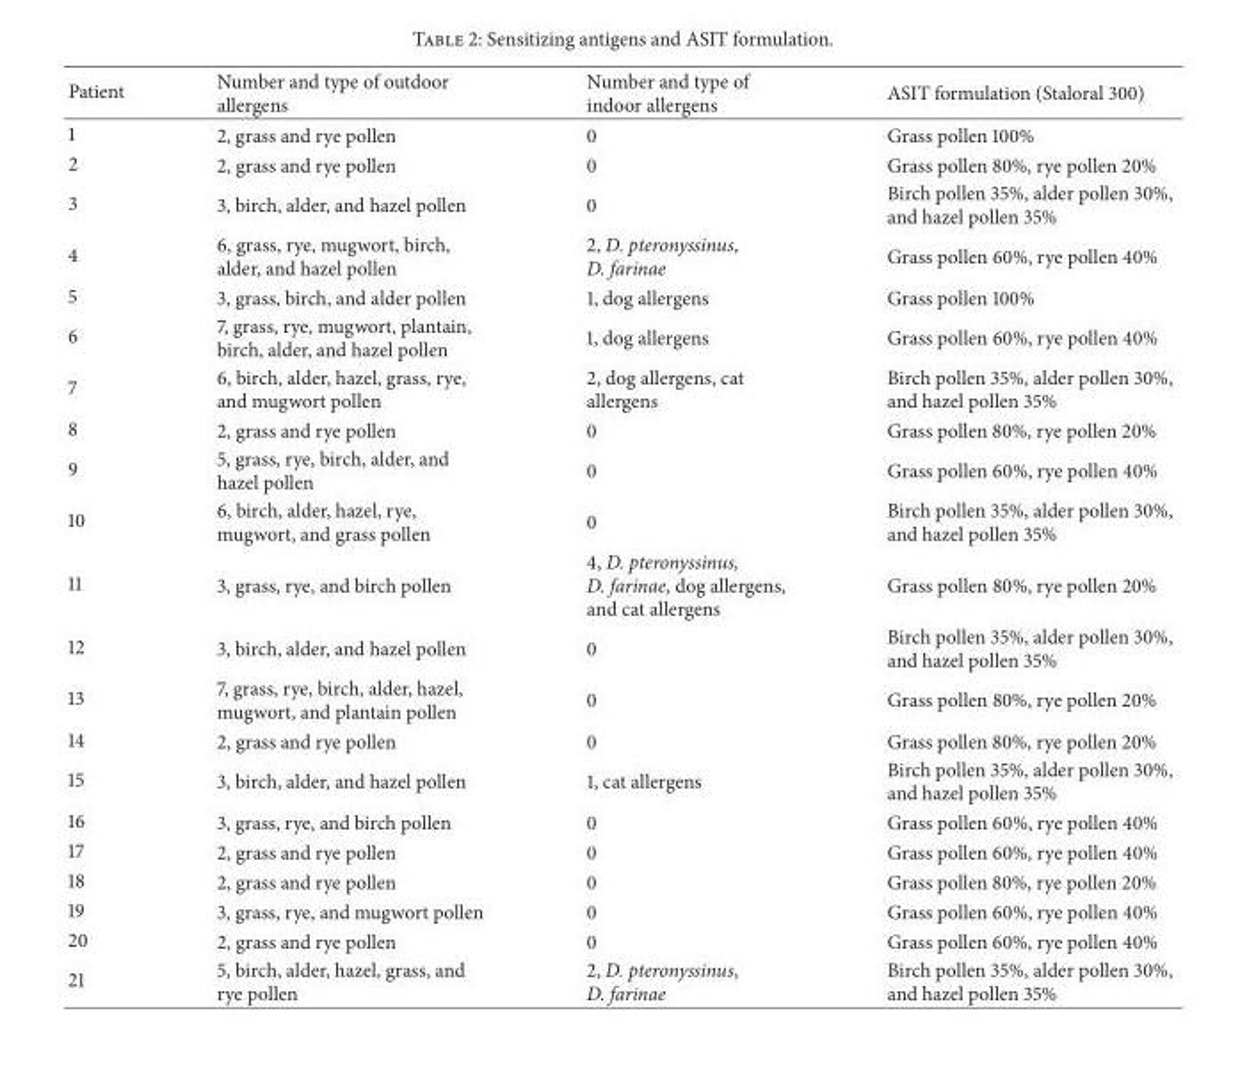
<table><thead><tr><td>Patient</td><td>Number and type of outdoor allergens</td><td>Number and type of indoor allergens</td><td>ASIT formulation (Staloral 300)</td></tr></thead><tbody><tr><td>1</td><td>2, grass and rye pollen</td><td>0</td><td>Grass pollen 100%</td></tr><tr><td>2</td><td>2, grass and rye pollen</td><td>0</td><td>Grass pollen 80%, rye pollen 20%</td></tr><tr><td>3</td><td>3, birch, alder, and hazel pollen</td><td>0</td><td>Birch pollen 35%, alder pollen 30%, and hazel pollen 35%</td></tr><tr><td>4</td><td>6, grass, rye, mugwort, birch, alder, and hazel pollen</td><td>2, D. pteronyssinus, D. farinae</td><td>Grass pollen 60%, rye pollen 40%</td></tr><tr><td>5</td><td>3, grass, birch, and alder pollen</td><td>1, dog allergens</td><td>Grass pollen 100%</td></tr><tr><td>6</td><td>7, grass, rye, mugwort, plantain, birch, alder, and hazel pollen</td><td>1, dog allergens</td><td>Grass pollen 60%, rye pollen 40%</td></tr><tr><td>7</td><td>6, birch, alder, hazel, grass, rye, and mugwort pollen</td><td>2, dog allergens, cat allergens</td><td>Birch pollen 35%, alder pollen 30%, and hazel pollen 35%</td></tr><tr><td>8</td><td>2, grass and rye pollen</td><td>0</td><td>Grass pollen 80%, rye pollen 20%</td></tr><tr><td>9</td><td>5, grass, rye, birch, alder, and hazel pollen</td><td>0</td><td>Grass pollen 60%, rye pollen 40%</td></tr><tr><td>10</td><td>6, birch, alder, hazel, rye, mugwort, and grass pollen</td><td>0</td><td>Birch pollen 35%, alder pollen 30%, and hazel pollen 35%</td></tr><tr><td>11</td><td>3, grass, rye, and birch pollen</td><td>4, D. pteronyssinus, D. farinae, dog allergens, and cat allergens</td><td>Grass pollen 80%, rye pollen 20%</td></tr><tr><td>12</td><td>3, birch, alder, and hazel pollen</td><td>0</td><td>Birch pollen 35%, alder pollen 30%, and hazel pollen 35%</td></tr><tr><td>13</td><td>7, grass, rye, birch, alder, hazel, mugwort, and plantain pollen</td><td>0</td><td>Grass pollen 80%, rye pollen 20%</td></tr><tr><td>14</td><td>2, grass and rye pollen</td><td>0</td><td>Grass pollen 80%, rye pollen 20%</td></tr><tr><td>15</td><td>3, birch, alder, and hazel pollen</td><td>1, cat allergens</td><td>Birch pollen 35%, alder pollen 30%, and hazel pollen 35%</td></tr><tr><td>16</td><td>3, grass, rye, and birch pollen</td><td>0</td><td>Grass pollen 60%, rye pollen 40%</td></tr><tr><td>17</td><td>2, grass and rye pollen</td><td>0</td><td>Grass pollen 60%, rye pollen 40%</td></tr><tr><td>18</td><td>2, grass and rye pollen</td><td>0</td><td>Grass pollen 80%, rye pollen 20%</td></tr><tr><td>19</td><td>3, grass, rye, and mugwort pollen</td><td>0</td><td>Grass pollen 60%, rye pollen 40%</td></tr><tr><td>20</td><td>2, grass and rye pollen</td><td>0</td><td>Grass pollen 60%, rye pollen 40%</td></tr><tr><td>21</td><td>5, birch, alder, hazel, grass, and rye pollen</td><td>2, D. pteronyssinus, D. farinae</td><td>Birch pollen 35%, alder pollen 30%, and hazel pollen 35%</td></tr></tbody></table>